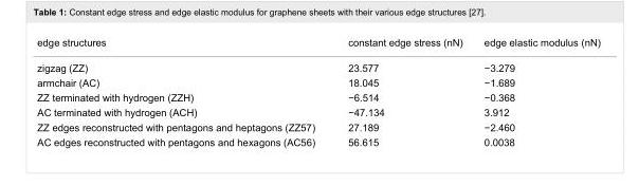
<table><tbody><tr><td>edge structures</td><td>constant edge stress (nN)</td><td>edge elastic modulus (nN)</td></tr><tr><td>zigzag (ZZ)</td><td>23.577</td><td>−3.279</td></tr><tr><td>armchair (AC)</td><td>18.045</td><td>−1.689</td></tr><tr><td>ZZ terminated with hydrogen (ZZH)</td><td>−6.514</td><td>−0.368</td></tr><tr><td>AC terminated with hydrogen (ACH)</td><td>−47.134</td><td>3.912</td></tr><tr><td>ZZ edges reconstructed with pentagons and heptagons (ZZ57)</td><td>27.189</td><td>−2.460</td></tr><tr><td>AC edges reconstructed with pentagons and hexagons (AC56)</td><td>56.615</td><td>0.0038</td></tr></tbody></table>